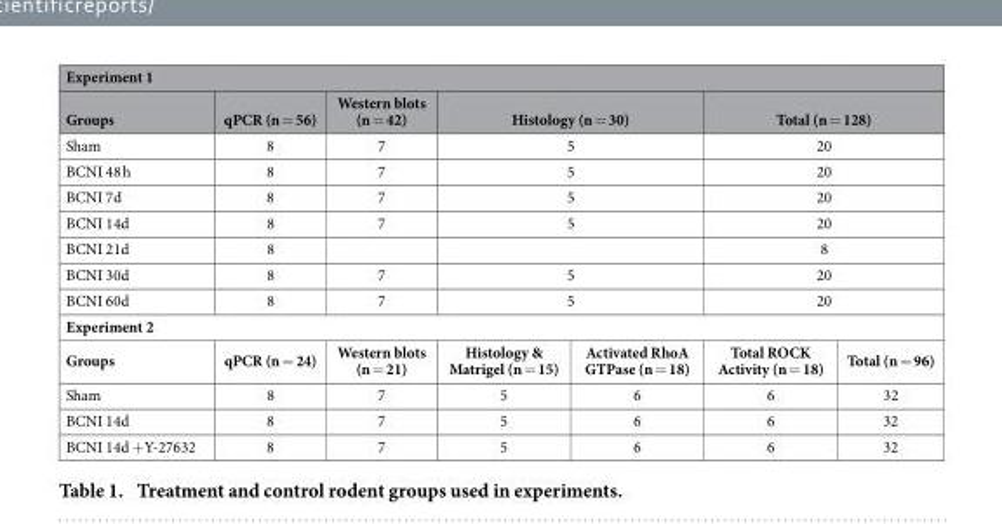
<table><thead><tr><td colspan="7">Experiment 1</td></tr><tr><td>Groups</td><td>qPCR (n = 56)</td><td>Western blots (n = 42)</td><td colspan="2">Histology (n = 30)</td><td colspan="2">Total (n = 128)</td></tr></thead><tbody><tr><td>Sham</td><td>8</td><td>7</td><td colspan="2">5</td><td colspan="2">20</td></tr><tr><td>BCNI 48 h</td><td>8</td><td>7</td><td colspan="2">5</td><td colspan="2">20</td></tr><tr><td>BCNI 7d</td><td>8</td><td>7</td><td colspan="2">5</td><td colspan="2">20</td></tr><tr><td>BCNI 14d</td><td>8</td><td>7</td><td colspan="2">5</td><td colspan="2">20</td></tr><tr><td>BCNI 21d</td><td>8</td><td></td><td colspan="2"></td><td colspan="2">8</td></tr><tr><td>BCNI 30d</td><td>8</td><td>7</td><td colspan="2">5</td><td colspan="2">20</td></tr><tr><td>BCNI 60d</td><td>8</td><td>7</td><td colspan="2">5</td><td colspan="2">20</td></tr><tr><td colspan="7">Experiment 2</td></tr><tr><td>Groups</td><td>qPCR (n = 24)</td><td>Western blots (n = 21)</td><td>Histology &amp; Matrigel (n = 15)</td><td>Activated RhoA GTPase (n = 18)</td><td>Total ROCK Activity (n = 18)</td><td>Total (n = 96)</td></tr><tr><td>Sham</td><td>8</td><td>7</td><td>5</td><td>6</td><td>6</td><td>32</td></tr><tr><td>BCNI 14d</td><td>8</td><td>7</td><td>5</td><td>6</td><td>6</td><td>32</td></tr><tr><td>BCNI 14d + Y-27632</td><td>8</td><td>7</td><td>5</td><td>6</td><td>6</td><td>32</td></tr></tbody></table>